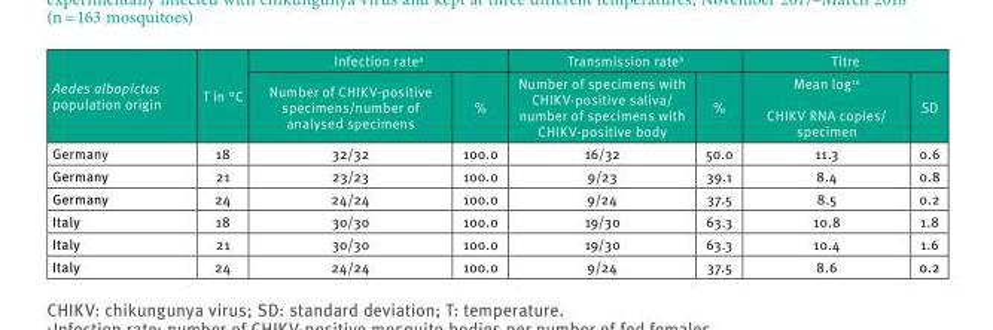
<table><thead><tr><td rowspan="2">Aedes albopictus population origin</td><td rowspan="2">T in °C</td><td colspan="2">Infection rate<sup>a</sup></td><td colspan="2">Transmission rate<sup>b</sup></td><td colspan="2">Titre</td></tr><tr><td>Number of CHIKV-positive specimens/number of analysed specimens</td><td>%</td><td>Number of specimens with CHIKV-positive saliva/ number of specimens with CHIKV-positive body</td><td>%</td><td>Mean log<sup>10</sup> CHIKV RNA copies/ specimen</td><td>SD</td></tr></thead><tbody><tr><td>Germany</td><td>18</td><td>32/32</td><td>100.0</td><td>16/32</td><td>50.0</td><td>11.3</td><td>0.6</td></tr><tr><td>Germany</td><td>21</td><td>23/23</td><td>100.0</td><td>9/23</td><td>39.1</td><td>8.4</td><td>0.8</td></tr><tr><td>Germany</td><td>24</td><td>24/24</td><td>100.0</td><td>9/24</td><td>37.5</td><td>8.5</td><td>0.2</td></tr><tr><td>Italy</td><td>18</td><td>30/30</td><td>100.0</td><td>19/30</td><td>63.3</td><td>10.8</td><td>1.8</td></tr><tr><td>Italy</td><td>21</td><td>30/30</td><td>100.0</td><td>19/30</td><td>63.3</td><td>10.4</td><td>1.6</td></tr><tr><td>Italy</td><td>24</td><td>24/24</td><td>100.0</td><td>9/24</td><td>37.5</td><td>8.6</td><td>0.2</td></tr></tbody></table>